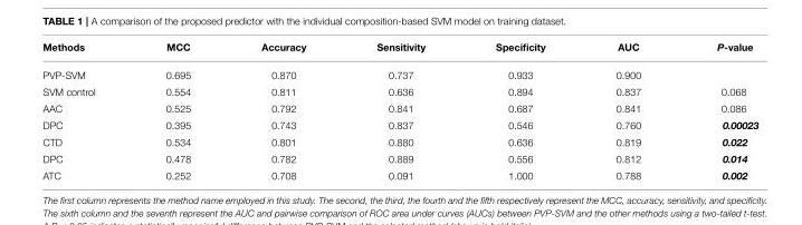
<table><thead><tr><td>Methods</td><td>MCC</td><td>Accuracy</td><td>Sensitivity</td><td>Specificity</td><td>AUC</td><td>P-value</td></tr></thead><tbody><tr><td>PVP-SVM</td><td>0.695</td><td>0.870</td><td>0.737</td><td>0.933</td><td>0.900</td><td></td></tr><tr><td>SVM control</td><td>0.554</td><td>0.811</td><td>0.636</td><td>0.894</td><td>0.837</td><td>0.068</td></tr><tr><td>AAC</td><td>0.525</td><td>0.792</td><td>0.841</td><td>0.687</td><td>0.841</td><td>0.086</td></tr><tr><td>DPC</td><td>0.395</td><td>0.743</td><td>0.837</td><td>0.546</td><td>0.760</td><td>0.00023</td></tr><tr><td>CTD</td><td>0.534</td><td>0.801</td><td>0.880</td><td>0.636</td><td>0.819</td><td>0.022</td></tr><tr><td>DPC</td><td>0.478</td><td>0.782</td><td>0.889</td><td>0.556</td><td>0.812</td><td>0.014</td></tr><tr><td>ATC</td><td>0.252</td><td>0.708</td><td>0.091</td><td>1.000</td><td>0.788</td><td>0.002</td></tr></tbody></table>